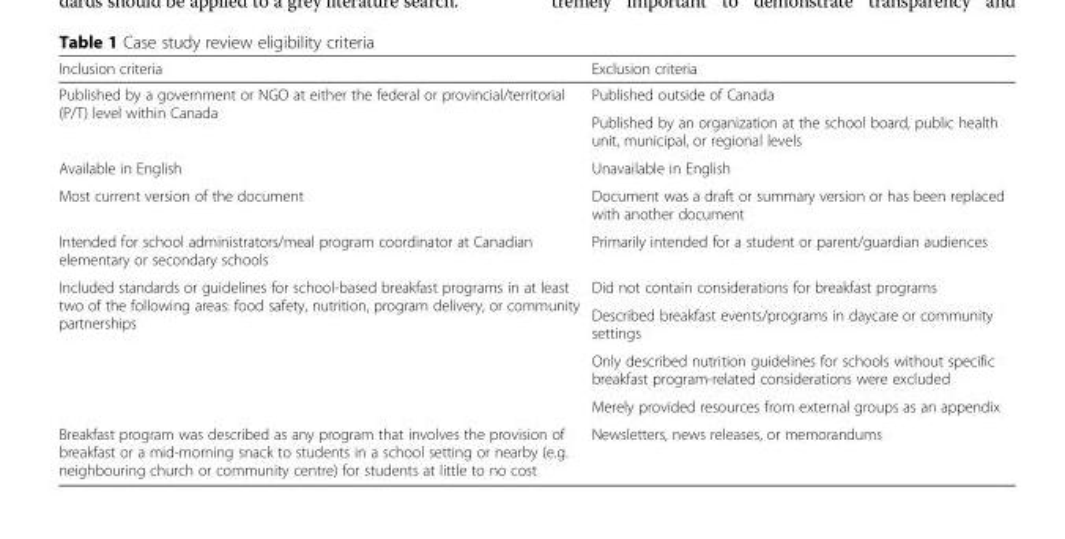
<table><thead><tr><td>Inclusion criteria</td><td>Exclusion criteria</td></tr></thead><tbody><tr><td rowspan="2">Published by a government or NGO at either the federal or provincial/territorial (P/T) level within Canada</td><td>Published outside of Canada</td></tr><tr><td>Published by an organization at the school board, public health unit, municipal, or regional levels</td></tr><tr><td>Available in English</td><td>Unavailable in English</td></tr><tr><td>Most current version of the document</td><td>Document was a draft or summary version or has been replaced with another document</td></tr><tr><td>Intended for school administrators/meal program coordinator at Canadian elementary or secondary schools</td><td>Primarily intended for a student or parent/guardian audiences</td></tr><tr><td rowspan="4">Included standards or guidelines for school-based breakfast programs in at least two of the following areas: food safety, nutrition, program delivery, or community partnerships</td><td>Did not contain considerations for breakfast programs</td></tr><tr><td>Described breakfast events/programs in daycare or community settings</td></tr><tr><td>Only described nutrition guidelines for schools without specific breakfast program-related considerations were excluded</td></tr><tr><td>Merely provided resources from external groups as an appendix</td></tr><tr><td>Breakfast program was described as any program that involves the provision of breakfast or a mid-morning snack to students in a school setting or nearby (e.g. neighbouring church or community centre) for students at little to no cost</td><td>Newsletters, news releases, or memorandums</td></tr></tbody></table>